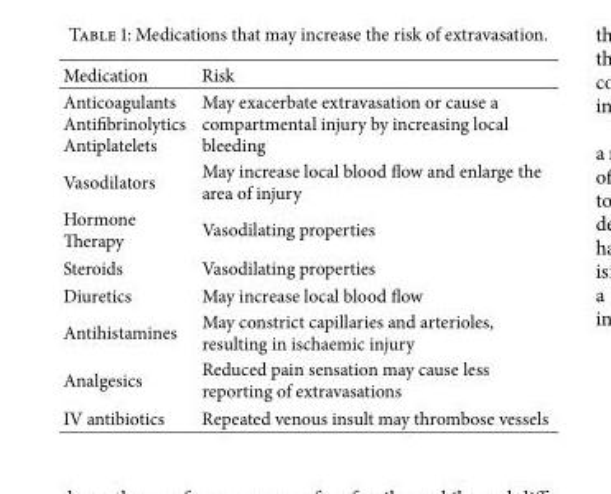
<table><thead><tr><td>Medication</td><td>Risk</td></tr></thead><tbody><tr><td>Anticoagulants Antifibrinolytics Antiplatelets</td><td>May exacerbate extravasation or cause a compartmental injury by increasing local bleeding</td></tr><tr><td>Vasodilators</td><td>May increase local blood flow and enlarge the area of injury</td></tr><tr><td>Hormone Therapy</td><td>Vasodilating properties</td></tr><tr><td>Steroids</td><td>Vasodilating properties</td></tr><tr><td>Diuretics</td><td>May increase local blood flow</td></tr><tr><td>Antihistamines</td><td>May constrict capillaries and arterioles, resulting in ischaemic injury</td></tr><tr><td>Analgesics</td><td>Reduced pain sensation may cause less reporting of extravasations</td></tr><tr><td>IV antibiotics</td><td>Repeated venous insult may thrombose vessels</td></tr></tbody></table>